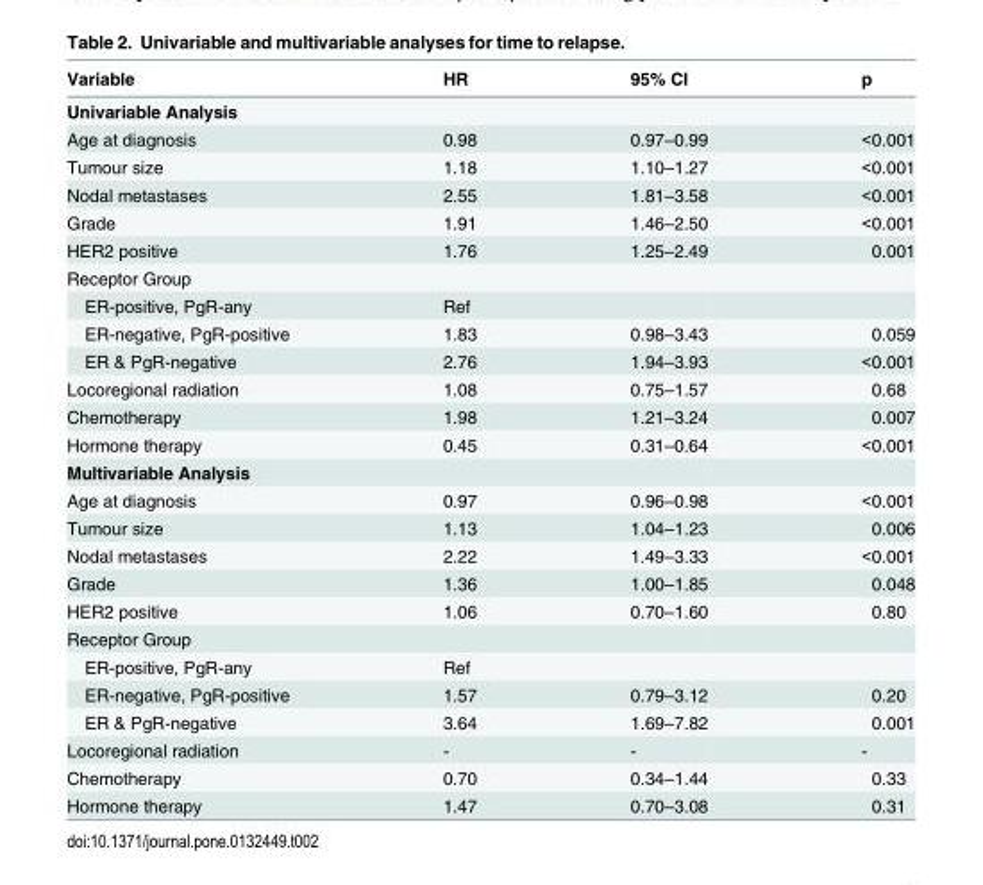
<table><thead><tr><td>Variable</td><td>HR</td><td>95% CI</td><td>p</td></tr></thead><tbody><tr><td colspan="4">Univariable Analysis</td></tr><tr><td>Age at diagnosis</td><td>0.98</td><td>0.97–0.99</td><td>&lt;0.001</td></tr><tr><td>Tumour size</td><td>1.18</td><td>1.10–1.27</td><td>&lt;0.001</td></tr><tr><td>Nodal metastases</td><td>2.55</td><td>1.81–3.58</td><td>&lt;0.001</td></tr><tr><td>Grade</td><td>1.91</td><td>1.46–2.50</td><td>&lt;0.001</td></tr><tr><td>HER2 positive</td><td>1.76</td><td>1.25–2.49</td><td>0.001</td></tr><tr><td colspan="4">Receptor Group</td></tr><tr><td>ER-positive, PgR-any</td><td>Ref</td><td></td><td></td></tr><tr><td>ER-negative, PgR-positive</td><td>1.83</td><td>0.98–3.43</td><td>0.059</td></tr><tr><td>ER &amp; PgR-negative</td><td>2.76</td><td>1.94–3.93</td><td>&lt;0.001</td></tr><tr><td>Locoregional radiation</td><td>1.08</td><td>0.75–1.57</td><td>0.68</td></tr><tr><td>Chemotherapy</td><td>1.98</td><td>1.21–3.24</td><td>0.007</td></tr><tr><td>Hormone therapy</td><td>0.45</td><td>0.31–0.64</td><td>&lt;0.001</td></tr><tr><td colspan="4">Multivariable Analysis</td></tr><tr><td>Age at diagnosis</td><td>0.97</td><td>0.96–0.98</td><td>&lt;0.001</td></tr><tr><td>Tumour size</td><td>1.13</td><td>1.04–1.23</td><td>0.006</td></tr><tr><td>Nodal metastases</td><td>2.22</td><td>1.49–3.33</td><td>&lt;0.001</td></tr><tr><td>Grade</td><td>1.36</td><td>1.00–1.85</td><td>0.048</td></tr><tr><td>HER2 positive</td><td>1.06</td><td>0.70–1.60</td><td>0.80</td></tr><tr><td colspan="4">Receptor Group</td></tr><tr><td>ER-positive, PgR-any</td><td>Ref</td><td></td><td></td></tr><tr><td>ER-negative, PgR-positive</td><td>1.57</td><td>0.79–3.12</td><td>0.20</td></tr><tr><td>ER &amp; PgR-negative</td><td>3.64</td><td>1.69–7.82</td><td>0.001</td></tr><tr><td>Locoregional radiation</td><td>-</td><td>-</td><td>-</td></tr><tr><td>Chemotherapy</td><td>0.70</td><td>0.34–1.44</td><td>0.33</td></tr><tr><td>Hormone therapy</td><td>1.47</td><td>0.70–3.08</td><td>0.31</td></tr></tbody></table>